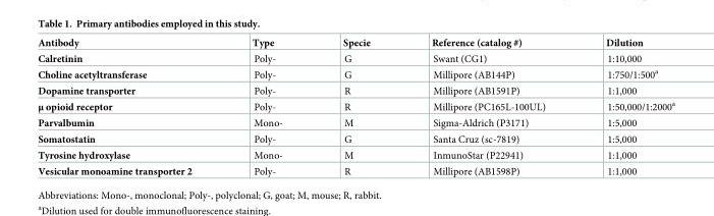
<table><thead><tr><td>Antibody</td><td>Type</td><td>Specie</td><td>Reference (catalog #)</td><td>Dilution</td></tr></thead><tbody><tr><td>Calretinin</td><td>Poly-</td><td>G</td><td>Swant (CG1)</td><td>1:10,000</td></tr><tr><td>Choline acetyltransferase</td><td>Poly-</td><td>G</td><td>Millipore (AB144P)</td><td>1:750/1:500<sup>a</sup></td></tr><tr><td>Dopamine transporter</td><td>Poly-</td><td>R</td><td>Millipore (AB1591P)</td><td>1:1,000</td></tr><tr><td>μ opioid receptor</td><td>Poly-</td><td>R</td><td>Millipore (PC165L-100UL)</td><td>1:50,000/1:2000<sup>a</sup></td></tr><tr><td>Parvalbumin</td><td>Mono-</td><td>M</td><td>Sigma-Aldrich (P3171)</td><td>1:5,000</td></tr><tr><td>Somatostatin</td><td>Poly-</td><td>G</td><td>Santa Cruz (sc-7819)</td><td>1:5,000</td></tr><tr><td>Tyrosine hydroxylase</td><td>Mono-</td><td>M</td><td>InmunoStar (P22941)</td><td>1:1,000</td></tr><tr><td>Vesicular monoamine transporter 2</td><td>Poly-</td><td>R</td><td>Millipore (AB1598P)</td><td>1:1,000</td></tr></tbody></table>